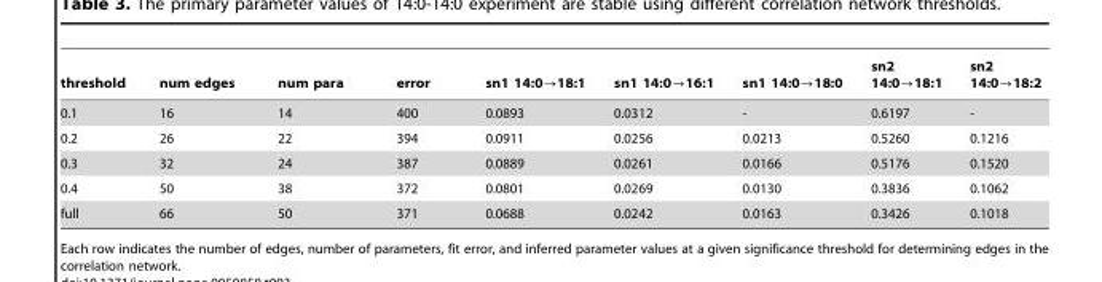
<table><thead><tr><td>threshold</td><td>num edges</td><td>num para</td><td>error</td><td>sn1 14:0?18:1</td><td>sn1 14:0?16:1</td><td>sn1 14:0?18:0</td><td>sn2 14:0?18:1</td><td>sn2 14:0?18:2</td></tr></thead><tbody><tr><td>0.1</td><td>16</td><td>14</td><td>400</td><td>0.0893</td><td>0.0312</td><td>-</td><td>0.6197</td><td>-</td></tr><tr><td>0.2</td><td>26</td><td>22</td><td>394</td><td>0.0911</td><td>0.0256</td><td>0.0213</td><td>0.5260</td><td>0.1216</td></tr><tr><td>0.3</td><td>32</td><td>24</td><td>387</td><td>0.0889</td><td>0.0261</td><td>0.0166</td><td>0.5176</td><td>0.1520</td></tr><tr><td>0.4</td><td>50</td><td>38</td><td>372</td><td>0.0801</td><td>0.0269</td><td>0.0130</td><td>0.3836</td><td>0.1062</td></tr><tr><td>full</td><td>66</td><td>50</td><td>371</td><td>0.0688</td><td>0.0242</td><td>0.0163</td><td>0.3426</td><td>0.1018</td></tr></tbody></table>